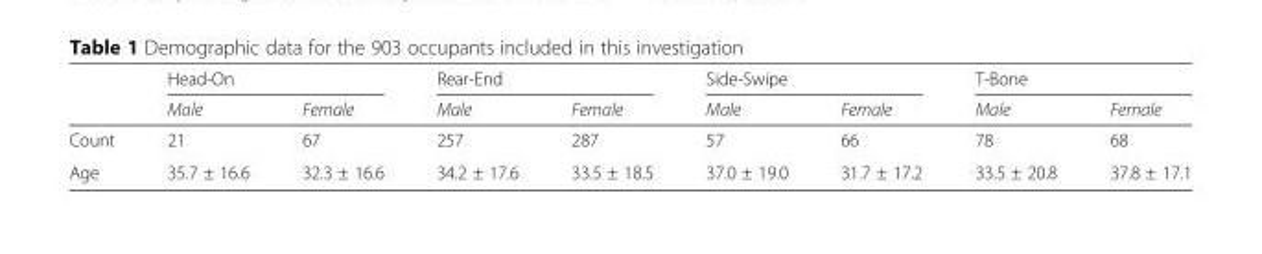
<table><thead><tr><td rowspan="2"></td><td colspan="2">Head-On</td><td colspan="2">Rear-End</td><td colspan="2">Side-Swipe</td><td colspan="2">T-Bone</td></tr><tr><td>Male</td><td>Female</td><td>Male</td><td>Female</td><td>Male</td><td>Female</td><td>Male</td><td>Female</td></tr></thead><tbody><tr><td>Count</td><td>21</td><td>67</td><td>257</td><td>287</td><td>57</td><td>66</td><td>78</td><td>68</td></tr><tr><td>Age</td><td>35.7 ± 16.6</td><td>32.3 ± 16.6</td><td>34.2 ± 17.6</td><td>33.5 ± 18.5</td><td>37.0 ± 19.0</td><td>31.7 ± 17.2</td><td>33.5 ± 20.8</td><td>37.8 ± 17.1</td></tr></tbody></table>